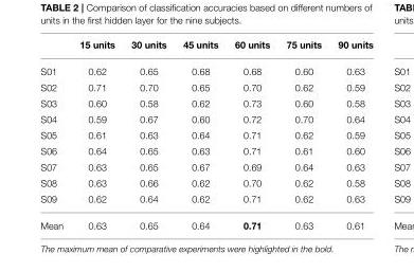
<table><thead><tr><td></td><td>15 units</td><td>30 units</td><td>45 units</td><td>60 units</td><td>75 units</td><td>90 units</td></tr></thead><tbody><tr><td>S01</td><td>0.62</td><td>0.65</td><td>0.68</td><td>0.68</td><td>0.60</td><td>0.63</td></tr><tr><td>S02</td><td>0.71</td><td>0.70</td><td>0.65</td><td>0.70</td><td>0.62</td><td>0.59</td></tr><tr><td>S03</td><td>0.60</td><td>0.58</td><td>0.62</td><td>0.73</td><td>0.60</td><td>0.58</td></tr><tr><td>S04</td><td>0.59</td><td>0.67</td><td>0.60</td><td>0.72</td><td>0.70</td><td>0.64</td></tr><tr><td>S05</td><td>0.61</td><td>0.63</td><td>0.64</td><td>0.71</td><td>0.62</td><td>0.59</td></tr><tr><td>S06</td><td>0.64</td><td>0.65</td><td>0.63</td><td>0.71</td><td>0.61</td><td>0.60</td></tr><tr><td>S07</td><td>0.63</td><td>0.65</td><td>0.67</td><td>0.69</td><td>0.64</td><td>0.63</td></tr><tr><td>S08</td><td>0.63</td><td>0.66</td><td>0.62</td><td>0.70</td><td>0.62</td><td>0.58</td></tr><tr><td>S09</td><td>0.62</td><td>0.64</td><td>0.62</td><td>0.71</td><td>0.62</td><td>0.63</td></tr><tr><td>Mean</td><td>0.63</td><td>0.65</td><td>0.64</td><td>0.71</td><td>0.63</td><td>0.61</td></tr></tbody></table>